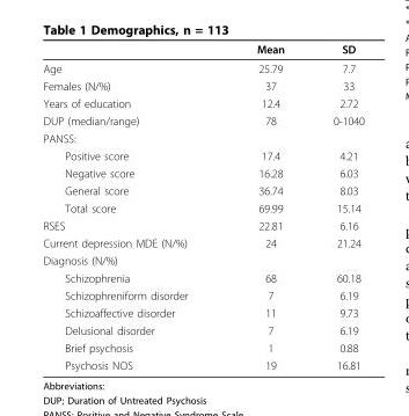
<table><thead><tr><td></td><td>Mean</td><td>SD</td></tr></thead><tbody><tr><td>Age</td><td>25.79</td><td>7.7</td></tr><tr><td>Females (N/%)</td><td>37</td><td>33</td></tr><tr><td>Years of education</td><td>12.4</td><td>2.72</td></tr><tr><td>DUP (median/range)</td><td>78</td><td>0-1040</td></tr><tr><td colspan="3">PANSS:</td></tr><tr><td>Positive score</td><td>17.4</td><td>4.21</td></tr><tr><td>Negative score</td><td>16.28</td><td>6.03</td></tr><tr><td>General score</td><td>36.74</td><td>8.03</td></tr><tr><td>Total score</td><td>69.99</td><td>15.14</td></tr><tr><td>RSES</td><td>22.81</td><td>6.16</td></tr><tr><td>Current depression MDE (N/%)</td><td>24</td><td>21.24</td></tr><tr><td colspan="3">Diagnosis (N/%)</td></tr><tr><td>Schizophrenia</td><td>68</td><td>60.18</td></tr><tr><td>Schizophreniform disorder</td><td>7</td><td>6.19</td></tr><tr><td>Schizoaffective disorder</td><td>11</td><td>9.73</td></tr><tr><td>Delusional disorder</td><td>7</td><td>6.19</td></tr><tr><td>Brief psychosis</td><td>1</td><td>0.88</td></tr><tr><td>Psychosis NOS</td><td>19</td><td>16.81</td></tr></tbody></table>